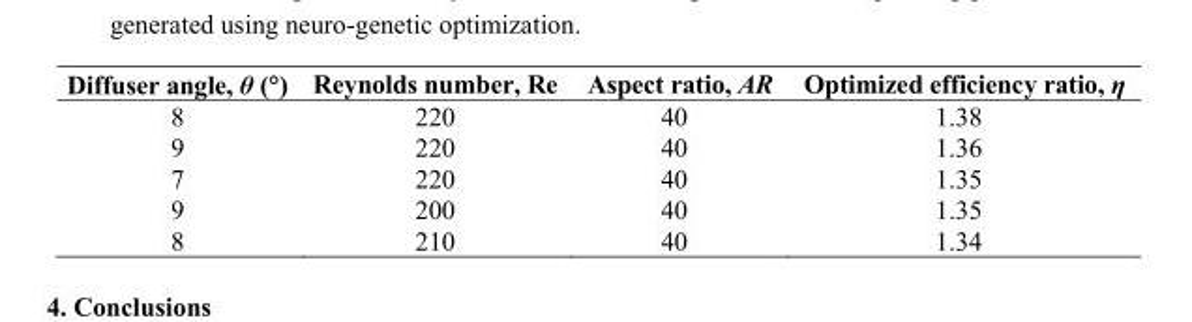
<table><thead><tr><td>Diffuser angle, θ (°)</td><td>Reynolds number, Re</td><td>Aspect ratio, AR</td><td>Optimized efficiency ratio, η</td></tr></thead><tbody><tr><td>8</td><td>220</td><td>40</td><td>1.38</td></tr><tr><td>9</td><td>220</td><td>40</td><td>1.36</td></tr><tr><td>7</td><td>220</td><td>40</td><td>1.35</td></tr><tr><td>9</td><td>200</td><td>40</td><td>1.35</td></tr><tr><td>8</td><td>210</td><td>40</td><td>1.34</td></tr></tbody></table>